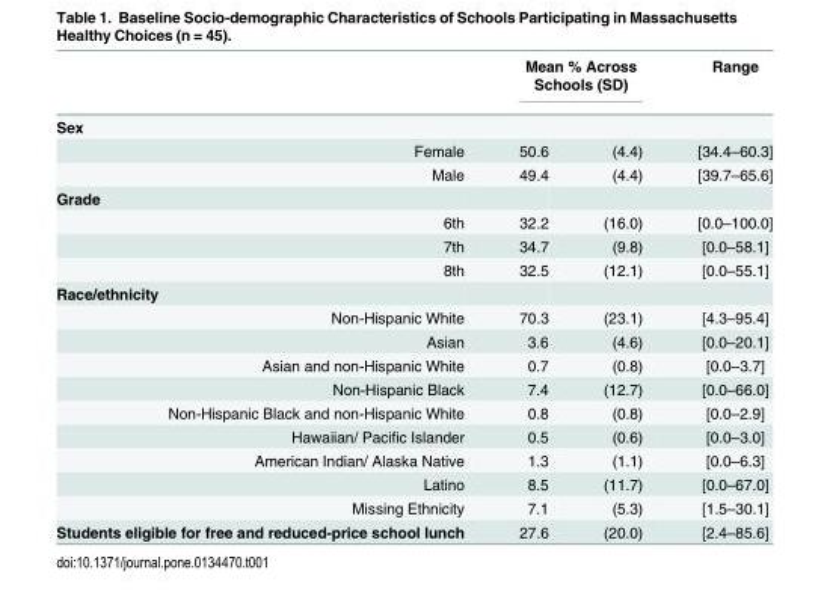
<table><thead><tr><td rowspan="2">Sex</td><td colspan="2">Mean % Across Schools (SD)</td><td rowspan="2">Range</td></tr><tr><td></td><td></td></tr></thead><tbody><tr><td>Female</td><td>50.6</td><td>(4.4)</td><td>[34.4–60.3]</td></tr><tr><td>Male</td><td>49.4</td><td>(4.4)</td><td>[39.7–65.6]</td></tr><tr><td colspan="4">Grade</td></tr><tr><td>6th</td><td>32.2</td><td>(16.0)</td><td>[0.0–100.0]</td></tr><tr><td>7th</td><td>34.7</td><td>(9.8)</td><td>[0.0–58.1]</td></tr><tr><td>8th</td><td>32.5</td><td>(12.1)</td><td>[0.0–55.1]</td></tr><tr><td colspan="4">Race/ethnicity</td></tr><tr><td>Non-Hispanic White</td><td>70.3</td><td>(23.1)</td><td>[4.3–95.4]</td></tr><tr><td>Asian</td><td>3.6</td><td>(4.6)</td><td>[0.0–20.1]</td></tr><tr><td>Asian and non-Hispanic White</td><td>0.7</td><td>(0.8)</td><td>[0.0–3.7]</td></tr><tr><td>Non-Hispanic Black</td><td>7.4</td><td>(12.7)</td><td>[0.0–66.0]</td></tr><tr><td>Non-Hispanic Black and non-Hispanic White</td><td>0.8</td><td>(0.8)</td><td>[0.0–2.9]</td></tr><tr><td>Hawaiian/ Pacific Islander</td><td>0.5</td><td>(0.6)</td><td>[0.0–3.0]</td></tr><tr><td>American Indian/ Alaska Native</td><td>1.3</td><td>(1.1)</td><td>[0.0–6.3]</td></tr><tr><td>Latino</td><td>8.5</td><td>(11.7)</td><td>[0.0–67.0]</td></tr><tr><td>Missing Ethnicity</td><td>7.1</td><td>(5.3)</td><td>[1.5–30.1]</td></tr><tr><td>Students eligible for free and reduced-price school lunch</td><td>27.6</td><td>(20.0)</td><td>[2.4–85.6]</td></tr></tbody></table>